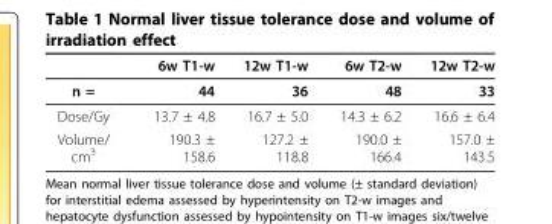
<table><thead><tr><td></td><td>6w T1-w</td><td>12w T1-w</td><td>6w T2-w</td><td>12w T2-w</td></tr></thead><tbody><tr><td>n =</td><td>44</td><td>36</td><td>48</td><td>33</td></tr><tr><td>Dose/Gy</td><td>13.7 ± 4.8</td><td>16.7 ± 5.0</td><td>14.3 ± 6.2</td><td>16.6 ± 6.4</td></tr><tr><td>Volume/ cm<sup>3</sup></td><td>190.3 ± 158.6</td><td>127.2 ± 118.8</td><td>190.0 ± 166.4</td><td>157.0 ± 143.5</td></tr></tbody></table>